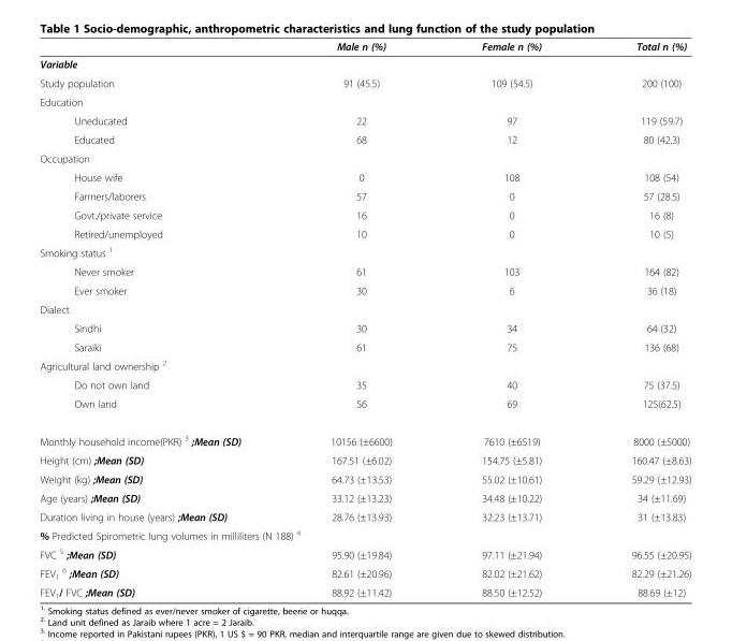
<table><thead><tr><td></td><td>Male n (%)</td><td>Female n (%)</td><td>Total n (%)</td></tr></thead><tbody><tr><td colspan="4">Variable</td></tr><tr><td>Study population</td><td>91 (45.5)</td><td>109 (54.5)</td><td>200 (100)</td></tr><tr><td colspan="4">Education</td></tr><tr><td>Uneducated</td><td>22</td><td>97</td><td>119 (59.7)</td></tr><tr><td>Educated</td><td>68</td><td>12</td><td>80 (42.3)</td></tr><tr><td colspan="4">Occupation</td></tr><tr><td>House wife</td><td>0</td><td>108</td><td>108 (54)</td></tr><tr><td>Farmers/laborers</td><td>57</td><td>0</td><td>57 (28.5)</td></tr><tr><td>Govt./private service</td><td>16</td><td>0</td><td>16 (8)</td></tr><tr><td>Retired/unemployed</td><td>10</td><td>0</td><td>10 (5)</td></tr><tr><td colspan="4">Smoking status <sup>1</sup></td></tr><tr><td>Never smoker</td><td>61</td><td>103</td><td>164 (82)</td></tr><tr><td>Ever smoker</td><td>30</td><td>6</td><td>36 (18)</td></tr><tr><td colspan="4">Dialect</td></tr><tr><td>Sindhi</td><td>30</td><td>34</td><td>64 (32)</td></tr><tr><td>Saraiki</td><td>61</td><td>75</td><td>136 (68)</td></tr><tr><td colspan="4">Agricultural land ownership <sup>2</sup></td></tr><tr><td>Do not own land</td><td>35</td><td>40</td><td>75 (37.5)</td></tr><tr><td>Own land</td><td>56</td><td>69</td><td>125(62.5)</td></tr><tr><td>Monthly household income(PKR) <sup>3</sup> ;Mean (SD)</td><td>10156 (±6600)</td><td>7610 (±6519)</td><td>8000 (±5000)</td></tr><tr><td>Height (cm) ;Mean (SD)</td><td>167.51 (±6.02)</td><td>154.75 (±5.81)</td><td>160.47 (±8.63)</td></tr><tr><td>Weight (kg) ;Mean (SD)</td><td>64.73 (±13.53)</td><td>55.02 (±10.61)</td><td>59.29 (±12.93)</td></tr><tr><td>Age (years) ;Mean (SD)</td><td>33.12 (±13.23)</td><td>34.48 (±10.22)</td><td>34 (±11.69)</td></tr><tr><td>Duration living in house (years) ;Mean (SD)</td><td>28.76 (±13.93)</td><td>32.23 (±13.71)</td><td>31 (±13.83)</td></tr><tr><td colspan="4">% Predicted Spirometric lung volumes in milliliters (N 188) <sup>4</sup></td></tr><tr><td>FVC <sup>5</sup> ;Mean (SD)</td><td>95.90 (±19.84)</td><td>97.11 (±21.94)</td><td>96.55 (±20.95)</td></tr><tr><td>FEV<sub>1</sub> <sup>6</sup> ;Mean (SD)</td><td>82.61 (±20.96)</td><td>82.02 (±21.62)</td><td>82.29 (±21.26)</td></tr><tr><td>FEV<sub>1</sub>/ FVC ;Mean (SD)</td><td>88.92 (±11.42)</td><td>88.50 (±12.52)</td><td>88.69 (±12)</td></tr></tbody></table>